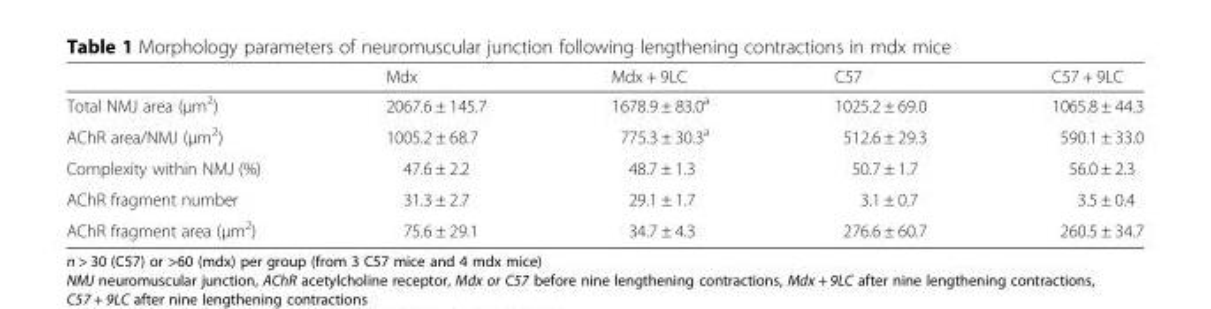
<table><thead><tr><td></td><td>Mdx</td><td>Mdx + 9LC</td><td>C57</td><td>C57 + 9LC</td></tr></thead><tbody><tr><td>Total NMJ area (μm<sup>2</sup>)</td><td>2067.6 ± 145.7</td><td>1678.9 ± 83.0<sup>a</sup></td><td>1025.2 ± 69.0</td><td>1065.8 ± 44.3</td></tr><tr><td>AChR area/NMJ (μm<sup>2</sup>)</td><td>1005.2 ± 68.7</td><td>775.3 ± 30.3<sup>a</sup></td><td>512.6 ± 29.3</td><td>590.1 ± 33.0</td></tr><tr><td>Complexity within NMJ (%)</td><td>47.6 ± 2.2</td><td>48.7 ± 1.3</td><td>50.7 ± 1.7</td><td>56.0 ± 2.3</td></tr><tr><td>AChR fragment number</td><td>31.3 ± 2.7</td><td>29.1 ± 1.7</td><td>3.1 ± 0.7</td><td>3.5 ± 0.4</td></tr><tr><td>AChR fragment area (μm<sup>2</sup>)</td><td>75.6 ± 29.1</td><td>34.7 ± 4.3</td><td>276.6 ± 60.7</td><td>260.5 ± 34.7</td></tr></tbody></table>